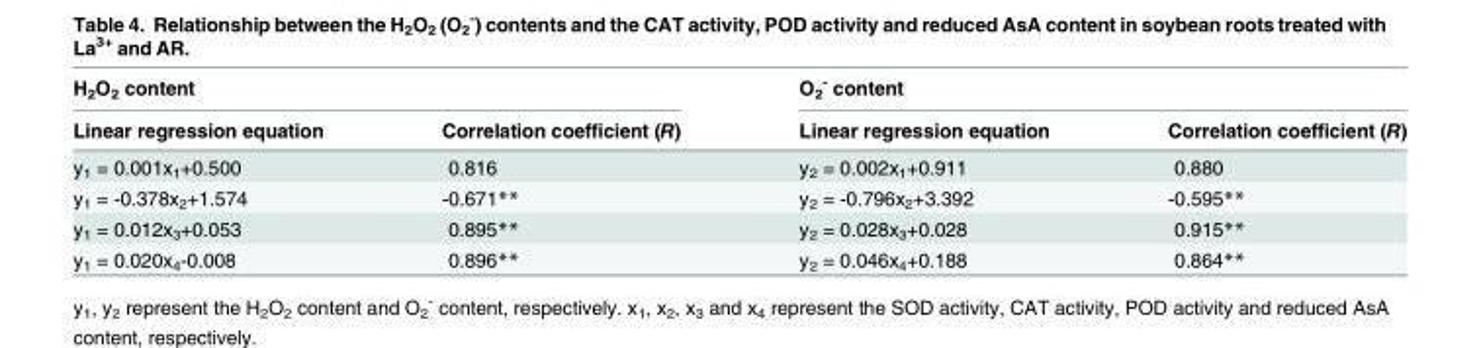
<table><thead><tr><td colspan="2">H<sub>2</sub>O<sub>2</sub> content</td><td colspan="2">O<sub>2</sub> <sup>-</sup> content</td></tr><tr><td>Linear regression equation</td><td>Correlation coefficient (R)</td><td>Linear regression equation</td><td>Correlation coefficient (R)</td></tr></thead><tbody><tr><td>y<sub>1</sub> = 0.001x<sub>1</sub>+0.500</td><td>0.816</td><td>y<sub>2</sub> = 0.002x<sub>1</sub>+0.911</td><td>0.880</td></tr><tr><td>y<sub>1</sub> = -0.378x<sub>2</sub>+1.574</td><td>-0.671**</td><td>y<sub>2</sub> = -0.796x<sub>2</sub>+3.392</td><td>-0.595**</td></tr><tr><td>y<sub>1</sub> = 0.012x<sub>3</sub>+0.053</td><td>0.895**</td><td>y<sub>2</sub> = 0.028x<sub>3</sub>+0.028</td><td>0.915**</td></tr><tr><td>y<sub>1</sub> = 0.020x<sub>4</sub>-0.008</td><td>0.896**</td><td>y<sub>2</sub> = 0.046x<sub>4</sub>+0.188</td><td>0.864**</td></tr></tbody></table>